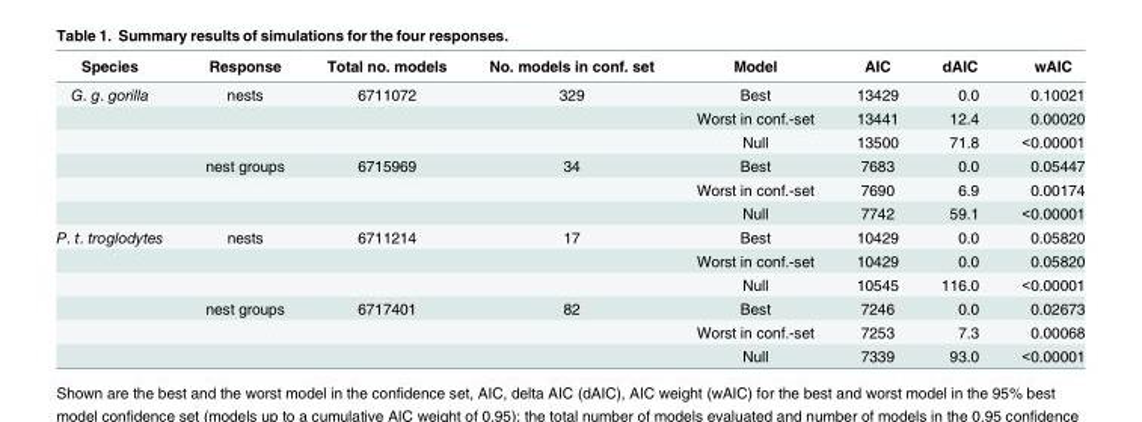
<table><thead><tr><td>Species</td><td>Response</td><td>Total no. models</td><td>No. models in conf. set</td><td>Model</td><td>AIC</td><td>dAIC</td><td>wAIC</td></tr></thead><tbody><tr><td rowspan="6">G. g. gorilla</td><td>nests</td><td>6711072</td><td>329</td><td>Best</td><td>13429</td><td>0.0</td><td>0.10021</td></tr><tr><td></td><td></td><td></td><td>Worst in conf.-set</td><td>13441</td><td>12.4</td><td>0.00020</td></tr><tr><td></td><td></td><td></td><td>Null</td><td>13500</td><td>71.8</td><td>&lt;0.00001</td></tr><tr><td>nest groups</td><td>6715969</td><td>34</td><td>Best</td><td>7683</td><td>0.0</td><td>0.05447</td></tr><tr><td></td><td></td><td></td><td>Worst in conf.-set</td><td>7690</td><td>6.9</td><td>0.00174</td></tr><tr><td></td><td></td><td></td><td>Null</td><td>7742</td><td>59.1</td><td>&lt;0.00001</td></tr><tr><td rowspan="6">P. t. troglodytes</td><td>nests</td><td>6711214</td><td>17</td><td>Best</td><td>10429</td><td>0.0</td><td>0.05820</td></tr><tr><td></td><td></td><td></td><td>Worst in conf.-set</td><td>10429</td><td>0.0</td><td>0.05820</td></tr><tr><td></td><td></td><td></td><td>Null</td><td>10545</td><td>116.0</td><td>&lt;0.00001</td></tr><tr><td>nest groups</td><td>6717401</td><td>82</td><td>Best</td><td>7246</td><td>0.0</td><td>0.02673</td></tr><tr><td></td><td></td><td></td><td>Worst in conf.-set</td><td>7253</td><td>7.3</td><td>0.00068</td></tr><tr><td></td><td></td><td></td><td>Null</td><td>7339</td><td>93.0</td><td>&lt;0.00001</td></tr></tbody></table>